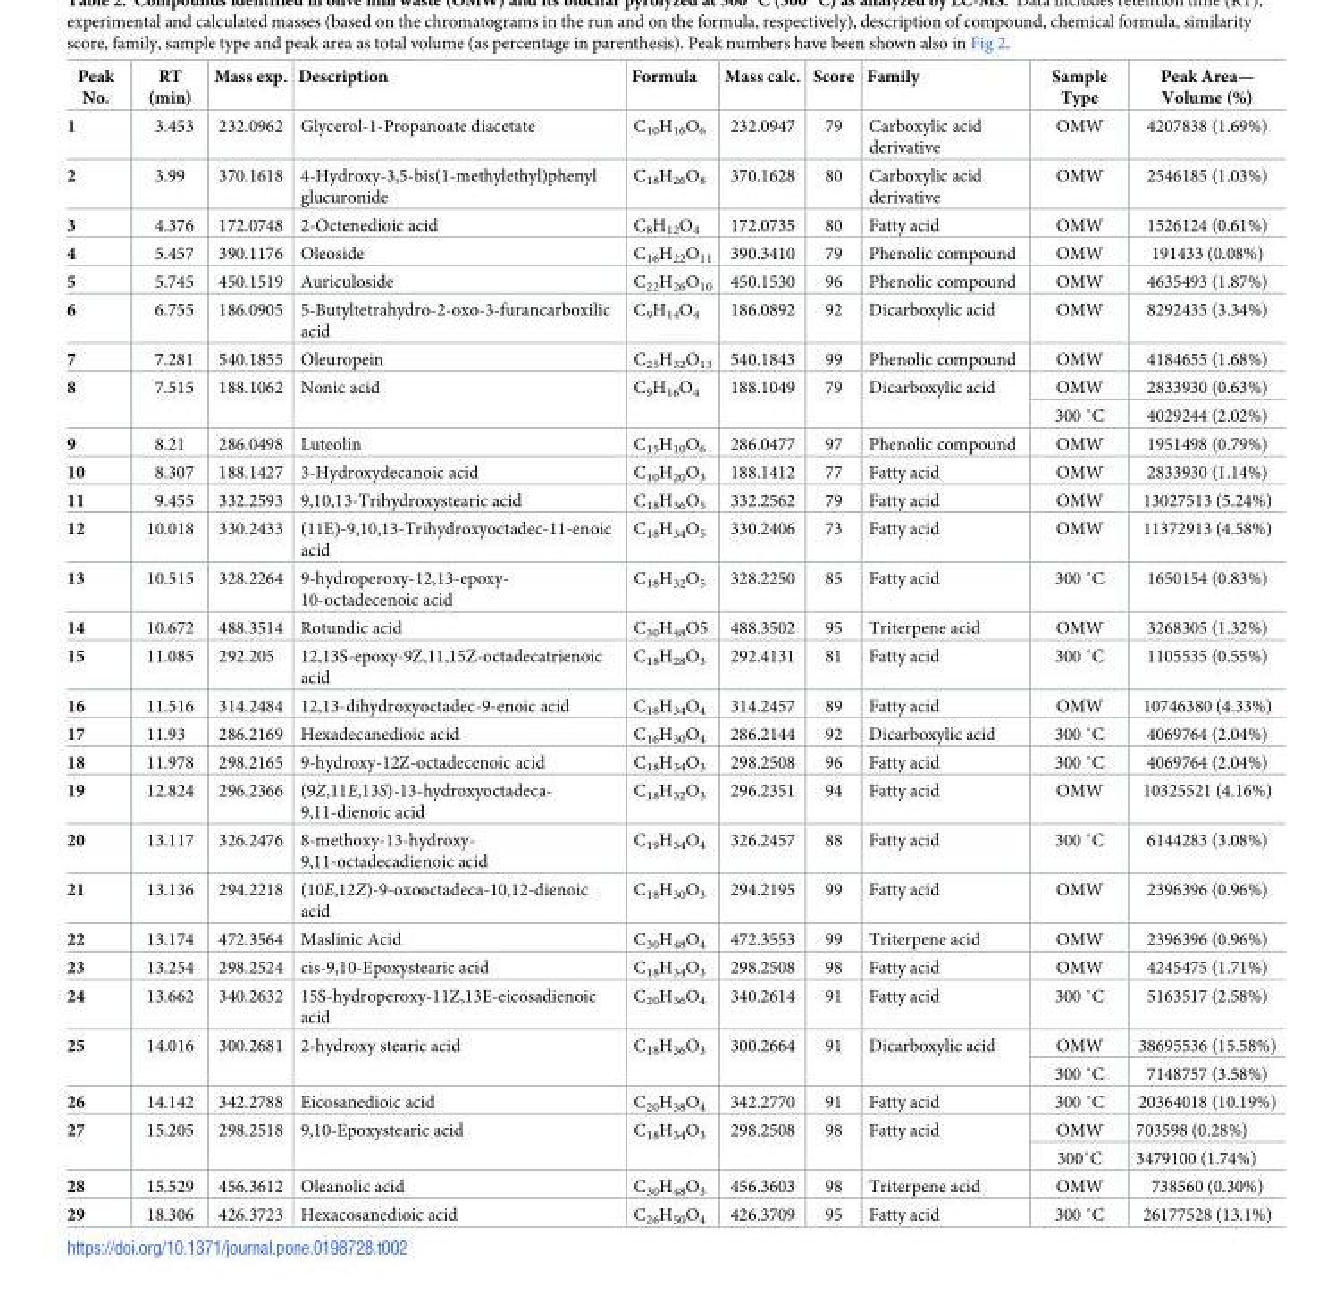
<table><thead><tr><td>Peak No.</td><td>RT (min)</td><td>Mass exp.</td><td>Description</td><td>Formula</td><td>Mass calc.</td><td>Score</td><td>Family</td><td>Sample Type</td><td>Peak Area— Volume (%)</td></tr></thead><tbody><tr><td>1</td><td>3.453</td><td>232.0962</td><td>Glycerol-1-Propanoate diacetate</td><td>C<sub>10</sub>H<sub>16</sub>O<sub>6</sub></td><td>232.0947</td><td>79</td><td>Carboxylic acid derivative</td><td>OMW</td><td>4207838 (1.69%)</td></tr><tr><td>2</td><td>3.99</td><td>370.1618</td><td>4-Hydroxy-3,5-bis(1-methylethyl)phenyl glucuronide</td><td>C<sub>18</sub>H<sub>26</sub>O<sub>8</sub></td><td>370.1628</td><td>80</td><td>Carboxylic acid derivative</td><td>OMW</td><td>2546185 (1.03%)</td></tr><tr><td>3</td><td>4.376</td><td>172.0748</td><td>2-Octenedioic acid</td><td>C<sub>8</sub>H<sub>12</sub>O<sub>4</sub></td><td>172.0735</td><td>80</td><td>Fatty acid</td><td>OMW</td><td>1526124 (0.61%)</td></tr><tr><td>4</td><td>5.457</td><td>390.1176</td><td>Oleoside</td><td>C<sub>16</sub>H<sub>22</sub>O<sub>11</sub></td><td>390.3410</td><td>79</td><td>Phenolic compound</td><td>OMW</td><td>191433 (0.08%)</td></tr><tr><td>5</td><td>5.745</td><td>450.1519</td><td>Auriculoside</td><td>C<sub>22</sub>H<sub>26</sub>O<sub>10</sub></td><td>450.1530</td><td>96</td><td>Phenolic compound</td><td>OMW</td><td>4635493 (1.87%)</td></tr><tr><td>6</td><td>6.755</td><td>186.0905</td><td>5-Butyltetrahydro-2-oxo-3-furancarboxilic acid</td><td>C<sub>9</sub>H<sub>14</sub>O<sub>4</sub></td><td>186.0892</td><td>92</td><td>Dicarboxylic acid</td><td>OMW</td><td>8292435 (3.34%)</td></tr><tr><td>7</td><td>7.281</td><td>540.1855</td><td>Oleuropein</td><td>C<sub>25</sub>H<sub>32</sub>O<sub>13</sub></td><td>540.1843</td><td>99</td><td>Phenolic compound</td><td>OMW</td><td>4184655 (1.68%)</td></tr><tr><td rowspan="2">8</td><td rowspan="2">7.515</td><td rowspan="2">188.1062</td><td rowspan="2">Nonic acid</td><td rowspan="2">C<sub>9</sub>H<sub>16</sub>O<sub>4</sub></td><td rowspan="2">188.1049</td><td rowspan="2">79</td><td rowspan="2">Dicarboxylic acid</td><td>OMW</td><td>2833930 (0.63%)</td></tr><tr><td>300 ˚C</td><td>4029244 (2.02%)</td></tr><tr><td>9</td><td>8.21</td><td>286.0498</td><td>Luteolin</td><td>C<sub>15</sub>H<sub>10</sub>O<sub>6</sub></td><td>286.0477</td><td>97</td><td>Phenolic compound</td><td>OMW</td><td>1951498 (0.79%)</td></tr><tr><td>10</td><td>8.307</td><td>188.1427</td><td>3-Hydroxydecanoic acid</td><td>C<sub>10</sub>H<sub>20</sub>O<sub>3</sub></td><td>188.1412</td><td>77</td><td>Fatty acid</td><td>OMW</td><td>2833930 (1.14%)</td></tr><tr><td>11</td><td>9.455</td><td>332.2593</td><td>9,10,13-Trihydroxystearic acid</td><td>C<sub>18</sub>H<sub>36</sub>O<sub>5</sub></td><td>332.2562</td><td>79</td><td>Fatty acid</td><td>OMW</td><td>13027513 (5.24%)</td></tr><tr><td>12</td><td>10.018</td><td>330.2433</td><td>(11E)-9,10,13-Trihydroxyoctadec-11-enoic acid</td><td>C<sub>18</sub>H<sub>34</sub>O<sub>5</sub></td><td>330.2406</td><td>73</td><td>Fatty acid</td><td>OMW</td><td>11372913 (4.58%)</td></tr><tr><td>13</td><td>10.515</td><td>328.2264</td><td>9-hydroperoxy-12,13-epoxy- 10-octadecenoic acid</td><td>C<sub>18</sub>H<sub>32</sub>O<sub>5</sub></td><td>328.2250</td><td>85</td><td>Fatty acid</td><td>300 ˚C</td><td>1650154 (0.83%)</td></tr><tr><td>14</td><td>10.672</td><td>488.3514</td><td>Rotundic acid</td><td>C<sub>30</sub>H<sub>48</sub>O5</td><td>488.3502</td><td>95</td><td>Triterpene acid</td><td>OMW</td><td>3268305 (1.32%)</td></tr><tr><td>15</td><td>11.085</td><td>292.205</td><td>12,13S-epoxy-9Z,11,15Z-octadecatrienoic acid</td><td>C<sub>18</sub>H<sub>28</sub>O<sub>3</sub></td><td>292.4131</td><td>81</td><td>Fatty acid</td><td>300 ˚C</td><td>1105535 (0.55%)</td></tr><tr><td>16</td><td>11.516</td><td>314.2484</td><td>12,13-dihydroxyoctadec-9-enoic acid</td><td>C<sub>18</sub>H<sub>34</sub>O<sub>4</sub></td><td>314.2457</td><td>89</td><td>Fatty acid</td><td>OMW</td><td>10746380 (4.33%)</td></tr><tr><td>17</td><td>11.93</td><td>286.2169</td><td>Hexadecanedioic acid</td><td>C<sub>16</sub>H<sub>30</sub>O<sub>4</sub></td><td>286.2144</td><td>92</td><td>Dicarboxylic acid</td><td>300 ˚C</td><td>4069764 (2.04%)</td></tr><tr><td>18</td><td>11.978</td><td>298.2165</td><td>9-hydroxy-12Z-octadecenoic acid</td><td>C<sub>18</sub>H<sub>34</sub>O<sub>3</sub></td><td>298.2508</td><td>96</td><td>Fatty acid</td><td>300 ˚C</td><td>4069764 (2.04%)</td></tr><tr><td>19</td><td>12.824</td><td>296.2366</td><td>(9Z,11E,13S)-13-hydroxyoctadeca- 9,11-dienoic acid</td><td>C<sub>18</sub>H<sub>32</sub>O<sub>3</sub></td><td>296.2351</td><td>94</td><td>Fatty acid</td><td>OMW</td><td>10325521 (4.16%)</td></tr><tr><td>20</td><td>13.117</td><td>326.2476</td><td>8-methoxy-13-hydroxy- 9,11-octadecadienoic acid</td><td>C<sub>19</sub>H<sub>34</sub>O<sub>4</sub></td><td>326.2457</td><td>88</td><td>Fatty acid</td><td>300 ˚C</td><td>6144283 (3.08%)</td></tr><tr><td>21</td><td>13.136</td><td>294.2218</td><td>(10E,12Z)-9-oxooctadeca-10,12-dienoic acid</td><td>C<sub>18</sub>H<sub>30</sub>O<sub>3</sub></td><td>294.2195</td><td>99</td><td>Fatty acid</td><td>OMW</td><td>2396396 (0.96%)</td></tr><tr><td>22</td><td>13.174</td><td>472.3564</td><td>Maslinic Acid</td><td>C<sub>30</sub>H<sub>48</sub>O<sub>4</sub></td><td>472.3553</td><td>99</td><td>Triterpene acid</td><td>OMW</td><td>2396396 (0.96%)</td></tr><tr><td>23</td><td>13.254</td><td>298.2524</td><td>cis-9,10-Epoxystearic acid</td><td>C<sub>18</sub>H<sub>34</sub>O<sub>3</sub></td><td>298.2508</td><td>98</td><td>Fatty acid</td><td>OMW</td><td>4245475 (1.71%)</td></tr><tr><td>24</td><td>13.662</td><td>340.2632</td><td>15S-hydroperoxy-11Z,13E-eicosadienoic acid</td><td>C<sub>20</sub>H<sub>36</sub>O<sub>4</sub></td><td>340.2614</td><td>91</td><td>Fatty acid</td><td>300 ˚C</td><td>5163517 (2.58%)</td></tr><tr><td rowspan="2">25</td><td rowspan="2">14.016</td><td rowspan="2">300.2681</td><td rowspan="2">2-hydroxy stearic acid</td><td rowspan="2">C<sub>18</sub>H<sub>36</sub>O<sub>3</sub></td><td rowspan="2">300.2664</td><td rowspan="2">91</td><td rowspan="2">Dicarboxylic acid</td><td>OMW</td><td>38695536 (15.58%)</td></tr><tr><td>300 ˚C</td><td>7148757 (3.58%)</td></tr><tr><td>26</td><td>14.142</td><td>342.2788</td><td>Eicosanedioic acid</td><td>C<sub>20</sub>H<sub>38</sub>O<sub>4</sub></td><td>342.2770</td><td>91</td><td>Fatty acid</td><td>300 ˚C</td><td>20364018 (10.19%)</td></tr><tr><td rowspan="2">27</td><td rowspan="2">15.205</td><td rowspan="2">298.2518</td><td rowspan="2">9,10-Epoxystearic acid</td><td rowspan="2">C<sub>18</sub>H<sub>34</sub>O<sub>3</sub></td><td rowspan="2">298.2508</td><td rowspan="2">98</td><td rowspan="2">Fatty acid</td><td>OMW</td><td>703598 (0.28%)</td></tr><tr><td>300˚C</td><td>3479100 (1.74%)</td></tr><tr><td>28</td><td>15.529</td><td>456.3612</td><td>Oleanolic acid</td><td>C<sub>30</sub>H<sub>48</sub>O<sub>3</sub></td><td>456.3603</td><td>98</td><td>Triterpene acid</td><td>OMW</td><td>738560 (0.30%)</td></tr><tr><td>29</td><td>18.306</td><td>426.3723</td><td>Hexacosanedioic acid</td><td>C<sub>26</sub>H<sub>50</sub>O<sub>4</sub></td><td>426.3709</td><td>95</td><td>Fatty acid</td><td>300 ˚C</td><td>26177528 (13.1%)</td></tr></tbody></table>